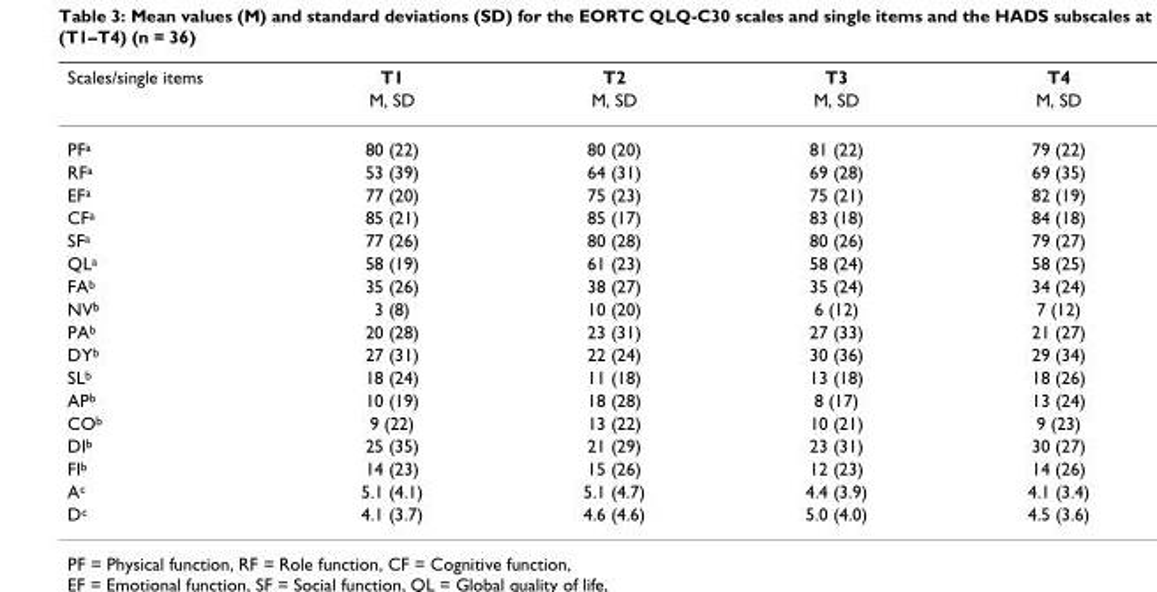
<table><thead><tr><td rowspan="2">Scales/single items</td><td rowspan="2">T1 M, SD</td><td rowspan="2">T2 M, SD</td><td rowspan="2">T3 M, SD</td><td rowspan="2">T4 M, SD</td></tr><tr></tr></thead><tbody><tr><td>PF<sup>a</sup></td><td>80 (22)</td><td>80 (20)</td><td>81 (22)</td><td>79 (22)</td></tr><tr><td>RF<sup>a</sup></td><td>53 (39)</td><td>64 (31)</td><td>69 (28)</td><td>69 (35)</td></tr><tr><td>EF<sup>a</sup></td><td>77 (20)</td><td>75 (23)</td><td>75 (21)</td><td>82 (19)</td></tr><tr><td>CF<sup>a</sup></td><td>85 (21)</td><td>85 (17)</td><td>83 (18)</td><td>84 (18)</td></tr><tr><td>SF<sup>a</sup></td><td>77 (26)</td><td>80 (28)</td><td>80 (26)</td><td>79 (27)</td></tr><tr><td>QL<sup>a</sup></td><td>58 (19)</td><td>61 (23)</td><td>58 (24)</td><td>58 (25)</td></tr><tr><td>FA<sup>b</sup></td><td>35 (26)</td><td>38 (27)</td><td>35 (24)</td><td>34 (24)</td></tr><tr><td>NV<sup>b</sup></td><td>3 (8)</td><td>10 (20)</td><td>6 (12)</td><td>7 (12)</td></tr><tr><td>PA<sup>b</sup></td><td>20 (28)</td><td>23 (31)</td><td>27 (33)</td><td>21 (27)</td></tr><tr><td>DY<sup>b</sup></td><td>27 (31)</td><td>22 (24)</td><td>30 (36)</td><td>29 (34)</td></tr><tr><td>SL<sup>b</sup></td><td>18 (24)</td><td>11 (18)</td><td>13 (18)</td><td>18 (26)</td></tr><tr><td>AP<sup>b</sup></td><td>10 (19)</td><td>18 (28)</td><td>8 (17)</td><td>13 (24)</td></tr><tr><td>CO<sup>b</sup></td><td>9 (22)</td><td>13 (22)</td><td>10 (21)</td><td>9 (23)</td></tr><tr><td>DI<sup>b</sup></td><td>25 (35)</td><td>21 (29)</td><td>23 (31)</td><td>30 (27)</td></tr><tr><td>FI<sup>b</sup></td><td>14 (23)</td><td>15 (26)</td><td>12 (23)</td><td>14 (26)</td></tr><tr><td>A<sup>c</sup></td><td>5.1 (4.1)</td><td>5.1 (4.7)</td><td>4.4 (3.9)</td><td>4.1 (3.4)</td></tr><tr><td>D<sup>c</sup></td><td>4.1 (3.7)</td><td>4.6 (4.6)</td><td>5.0 (4.0)</td><td>4.5 (3.6)</td></tr></tbody></table>